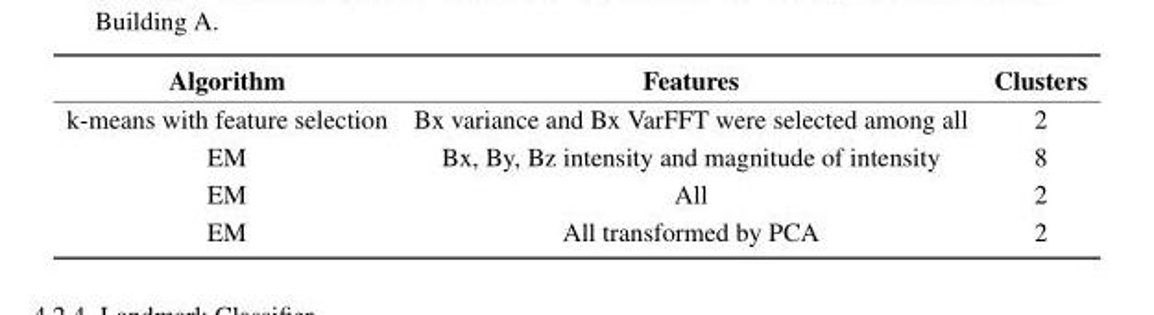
<table><thead><tr><td>Algorithm</td><td>Features</td><td>Clusters</td></tr></thead><tbody><tr><td>k-means with feature selection</td><td>Bx variance and Bx VarFFT were selected among all</td><td>2</td></tr><tr><td>EM</td><td>Bx, By, Bz intensity and magnitude of intensity</td><td>8</td></tr><tr><td>EM</td><td>All</td><td>2</td></tr><tr><td>EM</td><td>All transformed by PCA</td><td>2</td></tr></tbody></table>